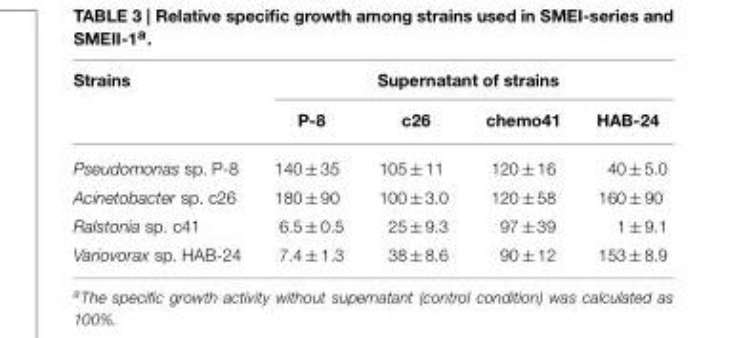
<table><thead><tr><td rowspan="2">Strains</td><td colspan="4">Supernatant of strains</td></tr><tr><td>P-8</td><td>c26</td><td>chemo41</td><td>HAB-24</td></tr></thead><tbody><tr><td>Pseudomonas sp. P-8</td><td>140 ± 35</td><td>105 ± 11</td><td>120 ± 16</td><td>40 ± 5.0</td></tr><tr><td>Acinetobacter sp. c26</td><td>180 ± 90</td><td>100 ± 3.0</td><td>120 ± 58</td><td>160 ± 90</td></tr><tr><td>Ralstonia sp. c41</td><td>6.5 ± 0.5</td><td>25 ± 9.3</td><td>97 ± 39</td><td>1 ± 9.1</td></tr><tr><td>Variovorax sp. HAB-24</td><td>7.4 ± 1.3</td><td>38 ± 8.6</td><td>90 ± 12</td><td>153 ± 8.9</td></tr></tbody></table>